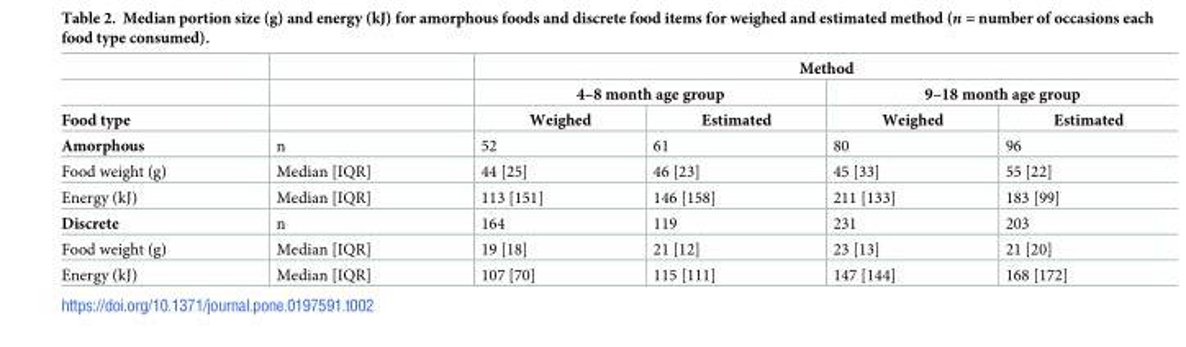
<table><thead><tr><td rowspan="3">Food type</td><td rowspan="3"></td><td colspan="4">Method</td></tr><tr><td colspan="2">4–8 month age group</td><td colspan="2">9–18 month age group</td></tr><tr><td>Weighed</td><td>Estimated</td><td>Weighed</td><td>Estimated</td></tr></thead><tbody><tr><td>Amorphous</td><td>n</td><td>52</td><td>61</td><td>80</td><td>96</td></tr><tr><td>Food weight (g)</td><td>Median [IQR]</td><td>44 [25]</td><td>46 [23]</td><td>45 [33]</td><td>55 [22]</td></tr><tr><td>Energy (kJ)</td><td>Median [IQR]</td><td>113 [151]</td><td>146 [158]</td><td>211 [133]</td><td>183 [99]</td></tr><tr><td>Discrete</td><td>n</td><td>164</td><td>119</td><td>231</td><td>203</td></tr><tr><td>Food weight (g)</td><td>Median [IQR]</td><td>19 [18]</td><td>21 [12]</td><td>23 [13]</td><td>21 [20]</td></tr><tr><td>Energy (kJ)</td><td>Median [IQR]</td><td>107 [70]</td><td>115 [111]</td><td>147 [144]</td><td>168 [172]</td></tr></tbody></table>